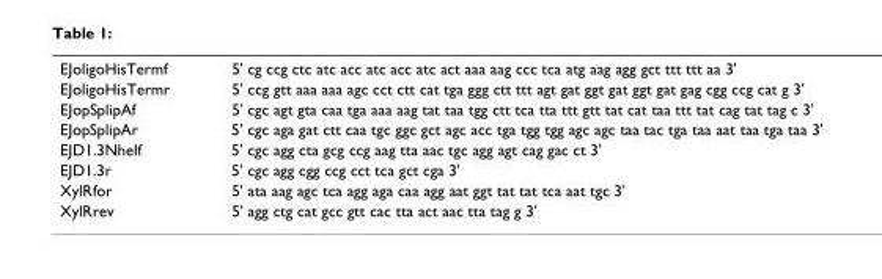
<table><tbody><tr><td>EJoligoHisTermf</td><td>5&#x27; cg ccg ctc atc acc atc acc atc act aaa aag ccc tca atg aag agg gct ttt ttt aa 3&#x27;</td></tr><tr><td>EJoligoHisTermr</td><td>5&#x27; ccg gtt aaa aaa agc cct ctt cat tga ggg ctt ttt agt gat ggt gat ggt gat gag cgg ccg cat g 3&#x27;</td></tr><tr><td>EJopSplipAf</td><td>5&#x27; cgc agt gta caa tga aaa aag tat taa tgg ctt tca tta ttt gtt tat cat taa ttt tat cag tat tag c 3&#x27;</td></tr><tr><td>EJopSplipAr</td><td>5&#x27; cgc aga gat ctt caa tgc ggc gct agc acc tga tgg tgg agc agc taa tac tga taa aat taa tga taa 3&#x27;</td></tr><tr><td>EJD1.3NheIf</td><td>5&#x27; cgc agg cta gcg ccg aag tta aac tgc agg agt cag gac ct 3&#x27;</td></tr><tr><td>EJD1.3r</td><td>5&#x27; cgc agg cgg ccg cct tca gct cga 3&#x27;</td></tr><tr><td>XylRfor</td><td>5&#x27; ata aag agc tca agg aga caa agg aat ggt tat tat tca aat tgc 3&#x27;</td></tr><tr><td>XylRrev</td><td>5&#x27; agg ctg cat gcc gtt cac tta act aac tta tag g 3&#x27;</td></tr></tbody></table>